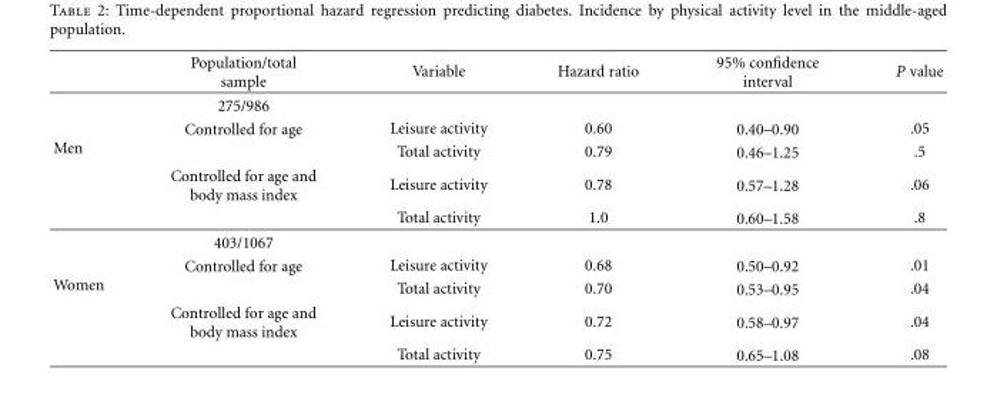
<table><thead><tr><td></td><td>Population/total sample</td><td>Variable</td><td>Hazard ratio</td><td>95% confidence interval</td><td>P value</td></tr></thead><tbody><tr><td rowspan="5">Men</td><td>275/986</td><td></td><td></td><td></td><td></td></tr><tr><td>Controlled for age</td><td>Leisure activity</td><td>0.60</td><td>0.40–0.90</td><td>.05</td></tr><tr><td></td><td>Total activity</td><td>0.79</td><td>0.46–1.25</td><td>.5</td></tr><tr><td>Controlled for age and body mass index</td><td>Leisure activity</td><td>0.78</td><td>0.57–1.28</td><td>.06</td></tr><tr><td></td><td>Total activity</td><td>1.0</td><td>0.60–1.58</td><td>.8</td></tr><tr><td rowspan="5">Women</td><td>403/1067</td><td></td><td></td><td></td><td></td></tr><tr><td>Controlled for age</td><td>Leisure activity</td><td>0.68</td><td>0.50–0.92</td><td>.01</td></tr><tr><td></td><td>Total activity</td><td>0.70</td><td>0.53–0.95</td><td>.04</td></tr><tr><td>Controlled for age and body mass index</td><td>Leisure activity</td><td>0.72</td><td>0.58–0.97</td><td>.04</td></tr><tr><td></td><td>Total activity</td><td>0.75</td><td>0.65–1.08</td><td>.08</td></tr></tbody></table>